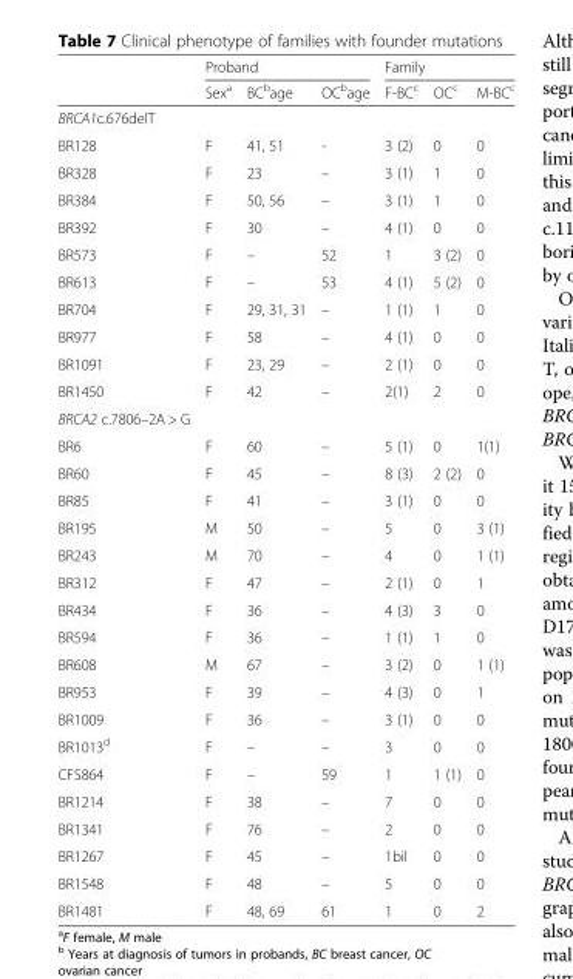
<table><thead><tr><td rowspan="2"></td><td colspan="3">Proband</td><td colspan="3">Family</td></tr><tr><td>Sex<sup>a</sup></td><td>BC<sup>b</sup>age</td><td>OC<sup>b</sup>age</td><td>F-BC<sup>c</sup></td><td>OC<sup>c</sup></td><td>M-BC<sup>c</sup></td></tr></thead><tbody><tr><td colspan="7">BRCA1c.676delT</td></tr><tr><td>BR128</td><td>F</td><td>41, 51</td><td>-</td><td>3 (2)</td><td>0</td><td>0</td></tr><tr><td>BR328</td><td>F</td><td>23</td><td>–</td><td>3 (1)</td><td>1</td><td>0</td></tr><tr><td>BR384</td><td>F</td><td>50, 56</td><td>–</td><td>3 (1)</td><td>1</td><td>0</td></tr><tr><td>BR392</td><td>F</td><td>30</td><td>–</td><td>4 (1)</td><td>0</td><td>0</td></tr><tr><td>BR573</td><td>F</td><td>–</td><td>52</td><td>1</td><td>3 (2)</td><td>0</td></tr><tr><td>BR613</td><td>F</td><td>–</td><td>53</td><td>4 (1)</td><td>5 (2)</td><td>0</td></tr><tr><td>BR704</td><td>F</td><td>29, 31, 31</td><td>–</td><td>1 (1)</td><td>1</td><td>0</td></tr><tr><td>BR977</td><td>F</td><td>58</td><td>–</td><td>4 (1)</td><td>0</td><td>0</td></tr><tr><td>BR1091</td><td>F</td><td>23, 29</td><td>–</td><td>2 (1)</td><td>0</td><td>0</td></tr><tr><td>BR1450</td><td>F</td><td>42</td><td>–</td><td>2(1)</td><td>2</td><td>0</td></tr><tr><td colspan="7">BRCA2 c.7806–2A &gt; G</td></tr><tr><td>BR6</td><td>F</td><td>60</td><td>–</td><td>5 (1)</td><td>0</td><td>1(1)</td></tr><tr><td>BR60</td><td>F</td><td>45</td><td>–</td><td>8 (3)</td><td>2 (2)</td><td>0</td></tr><tr><td>BR85</td><td>F</td><td>41</td><td>–</td><td>3 (1)</td><td>0</td><td>0</td></tr><tr><td>BR195</td><td>M</td><td>50</td><td>–</td><td>5</td><td>0</td><td>3 (1)</td></tr><tr><td>BR243</td><td>M</td><td>70</td><td>–</td><td>4</td><td>0</td><td>1 (1)</td></tr><tr><td>BR312</td><td>F</td><td>47</td><td>–</td><td>2 (1)</td><td>0</td><td>1</td></tr><tr><td>BR434</td><td>F</td><td>36</td><td>–</td><td>4 (3)</td><td>3</td><td>0</td></tr><tr><td>BR594</td><td>F</td><td>36</td><td>–</td><td>1 (1)</td><td>1</td><td>0</td></tr><tr><td>BR608</td><td>M</td><td>67</td><td>–</td><td>3 (2)</td><td>0</td><td>1 (1)</td></tr><tr><td>BR953</td><td>F</td><td>39</td><td>–</td><td>4 (3)</td><td>0</td><td>1</td></tr><tr><td>BR1009</td><td>F</td><td>36</td><td>–</td><td>3 (1)</td><td>0</td><td>0</td></tr><tr><td>BR1013<sup>d</sup></td><td>F</td><td>–</td><td>–</td><td>3</td><td>0</td><td>0</td></tr><tr><td>CFS864</td><td>F</td><td>–</td><td>59</td><td>1</td><td>1 (1)</td><td>0</td></tr><tr><td>BR1214</td><td>F</td><td>38</td><td>–</td><td>7</td><td>0</td><td>0</td></tr><tr><td>BR1341</td><td>F</td><td>76</td><td>–</td><td>2</td><td>0</td><td>0</td></tr><tr><td>BR1267</td><td>F</td><td>45</td><td>–</td><td>1bil</td><td>0</td><td>0</td></tr><tr><td>BR1548</td><td>F</td><td>48</td><td>–</td><td>5</td><td>0</td><td>0</td></tr><tr><td>BR1481</td><td>F</td><td>48, 69</td><td>61</td><td>1</td><td>0</td><td>2</td></tr></tbody></table>